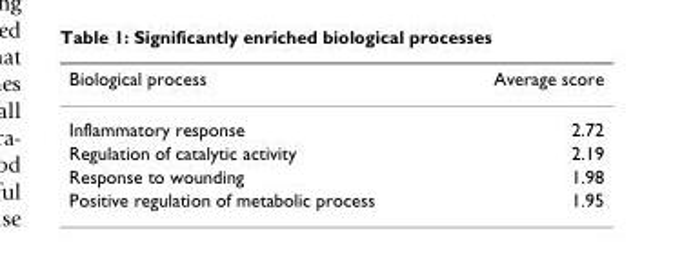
<table><thead><tr><td>Biological process</td><td>Average score</td></tr></thead><tbody><tr><td>Inflammatory response</td><td>2.72</td></tr><tr><td>Regulation of catalytic activity</td><td>2.19</td></tr><tr><td>Response to wounding</td><td>1.98</td></tr><tr><td>Positive regulation of metabolic process</td><td>1.95</td></tr></tbody></table>